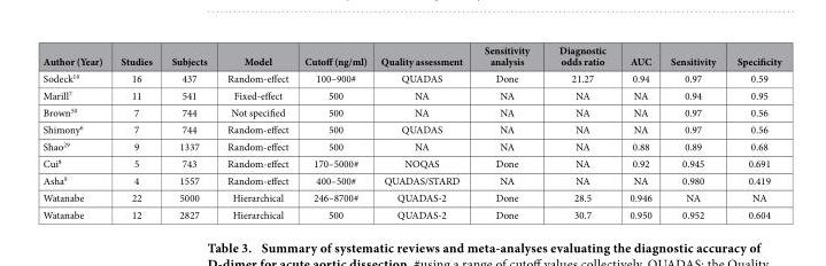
<table><thead><tr><td>Author (Year)</td><td>Studies</td><td>Subjects</td><td>Model</td><td>Cutoff (ng/ml)</td><td>Quality assessment</td><td>Sensitivity analysis</td><td>Diagnostic odds ratio</td><td>AUC</td><td>Sensitivity</td><td>Specificity</td></tr></thead><tbody><tr><td>Sodeck<sup>10</sup></td><td>16</td><td>437</td><td>Random-effect</td><td>100–900#</td><td>QUADAS</td><td>Done</td><td>21.27</td><td>0.94</td><td>0.97</td><td>0.59</td></tr><tr><td>Marill<sup>7</sup></td><td>11</td><td>541</td><td>Fixed-effect</td><td>500</td><td>NA</td><td>NA</td><td>NA</td><td>NA</td><td>0.94</td><td>0.95</td></tr><tr><td>Brown<sup>50</sup></td><td>7</td><td>744</td><td>Not specified</td><td>500</td><td>NA</td><td>NA</td><td>NA</td><td>NA</td><td>0.97</td><td>0.56</td></tr><tr><td>Shimony<sup>6</sup></td><td>7</td><td>744</td><td>Random-effect</td><td>500</td><td>QUADAS</td><td>NA</td><td>NA</td><td>NA</td><td>0.97</td><td>0.56</td></tr><tr><td>Shao<sup>29</sup></td><td>9</td><td>1337</td><td>Random-effect</td><td>500</td><td>NA</td><td>NA</td><td>NA</td><td>0.88</td><td>0.89</td><td>0.68</td></tr><tr><td>Cui<sup>8</sup></td><td>5</td><td>743</td><td>Random-effect</td><td>170–5000#</td><td>NOQAS</td><td>Done</td><td>NA</td><td>0.92</td><td>0.945</td><td>0.691</td></tr><tr><td>Asha<sup>9</sup></td><td>4</td><td>1557</td><td>Random-effect</td><td>400–500#</td><td>QUADAS/STARD</td><td>NA</td><td>NA</td><td>NA</td><td>0.980</td><td>0.419</td></tr><tr><td>Watanabe</td><td>22</td><td>5000</td><td>Hierarchical</td><td>246–8700#</td><td>QUADAS-2</td><td>Done</td><td>28.5</td><td>0.946</td><td>NA</td><td>NA</td></tr><tr><td>Watanabe</td><td>12</td><td>2827</td><td>Hierarchical</td><td>500</td><td>QUADAS-2</td><td>Done</td><td>30.7</td><td>0.950</td><td>0.952</td><td>0.604</td></tr></tbody></table>